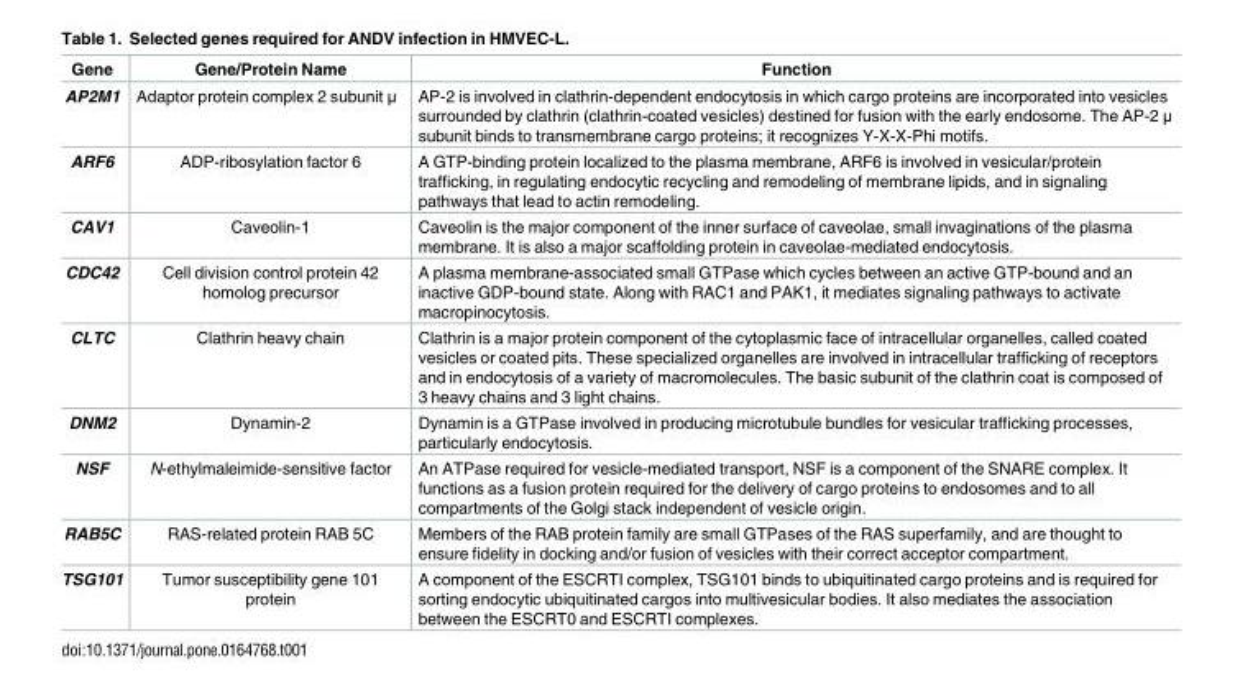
<table><thead><tr><td>Gene</td><td>Gene/Protein Name</td><td>Function</td></tr></thead><tbody><tr><td>AP2M1</td><td>Adaptor protein complex 2 subunit μ</td><td>AP-2 is involved in clathrin-dependent endocytosis in which cargo proteins are incorporated into vesicles surrounded by clathrin (clathrin-coated vesicles) destined for fusion with the early endosome. The AP-2 μ subunit binds to transmembrane cargo proteins; it recognizes Y-X-X-Phi motifs.</td></tr><tr><td>ARF6</td><td>ADP-ribosylation factor 6</td><td>A GTP-binding protein localized to the plasma membrane, ARF6 is involved in vesicular/protein trafficking, in regulating endocytic recycling and remodeling of membrane lipids, and in signaling pathways that lead to actin remodeling.</td></tr><tr><td>CAV1</td><td>Caveolin-1</td><td>Caveolin is the major component of the inner surface of caveolae, small invaginations of the plasma membrane. It is also a major scaffolding protein in caveolae-mediated endocytosis.</td></tr><tr><td>CDC42</td><td>Cell division control protein 42 homolog precursor</td><td>A plasma membrane-associated small GTPase which cycles between an active GTP-bound and an inactive GDP-bound state. Along with RAC1 and PAK1, it mediates signaling pathways to activate macropinocytosis.</td></tr><tr><td>CLTC</td><td>Clathrin heavy chain</td><td>Clathrin is a major protein component of the cytoplasmic face of intracellular organelles, called coated vesicles or coated pits. These specialized organelles are involved in intracellular trafficking of receptors and in endocytosis of a variety of macromolecules. The basic subunit of the clathrin coat is composed of 3 heavy chains and 3 light chains.</td></tr><tr><td>DNM2</td><td>Dynamin-2</td><td>Dynamin is a GTPase involved in producing microtubule bundles for vesicular trafficking processes, particularly endocytosis.</td></tr><tr><td>NSF</td><td>N-ethylmaleimide-sensitive factor</td><td>An ATPase required for vesicle-mediated transport, NSF is a component of the SNARE complex. It functions as a fusion protein required for the delivery of cargo proteins to endosomes and to all compartments of the Golgi stack independent of vesicle origin.</td></tr><tr><td>RAB5C</td><td>RAS-related protein RAB 5C</td><td>Members of the RAB protein family are small GTPases of the RAS superfamily, and are thought to ensure fidelity in docking and/or fusion of vesicles with their correct acceptor compartment.</td></tr><tr><td>TSG101</td><td>Tumor susceptibility gene 101 protein</td><td>A component of the ESCRTI complex, TSG101 binds to ubiquitinated cargo proteins and is required for sorting endocytic ubiquitinated cargos into multivesicular bodies. It also mediates the association between the ESCRT0 and ESCRTI complexes.</td></tr></tbody></table>